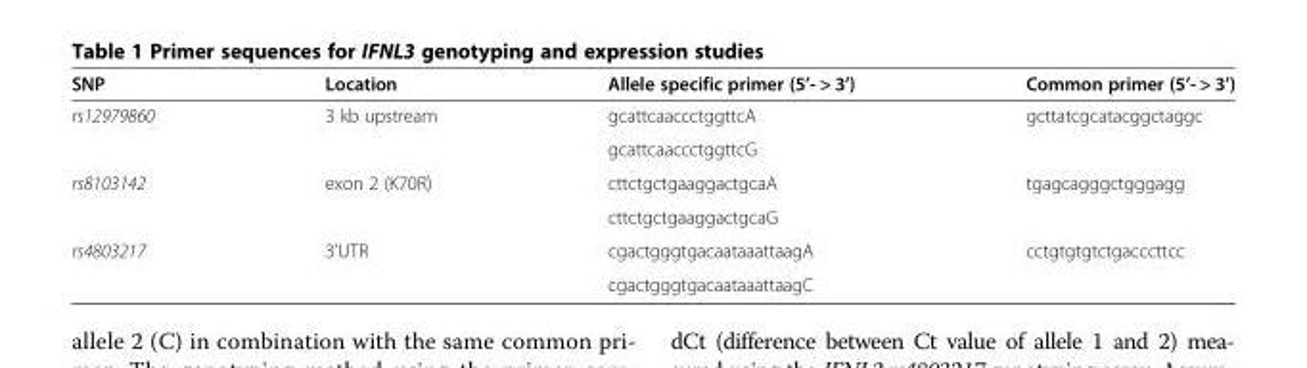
<table><thead><tr><td>SNP</td><td>Location</td><td>Allele specific primer (5’- &gt; 3’)</td><td>Common primer (5’- &gt; 3’)</td></tr></thead><tbody><tr><td rowspan="2">rs12979860</td><td rowspan="2">3 kb upstream</td><td>gcattcaaccctggttcA</td><td rowspan="2">gcttatcgcatacggctaggc</td></tr><tr><td>gcattcaaccctggttcG</td></tr><tr><td rowspan="2">rs8103142</td><td rowspan="2">exon 2 (K70R)</td><td>cttctgctgaaggactgcaA</td><td rowspan="2">tgagcagggctgggagg</td></tr><tr><td>cttctgctgaaggactgcaG</td></tr><tr><td rowspan="2">rs4803217</td><td rowspan="2">3’UTR</td><td>cgactgggtgacaataaattaagA</td><td rowspan="2">cctgtgtgtctgacccttcc</td></tr><tr><td>cgactgggtgacaataaattaagC</td></tr></tbody></table>